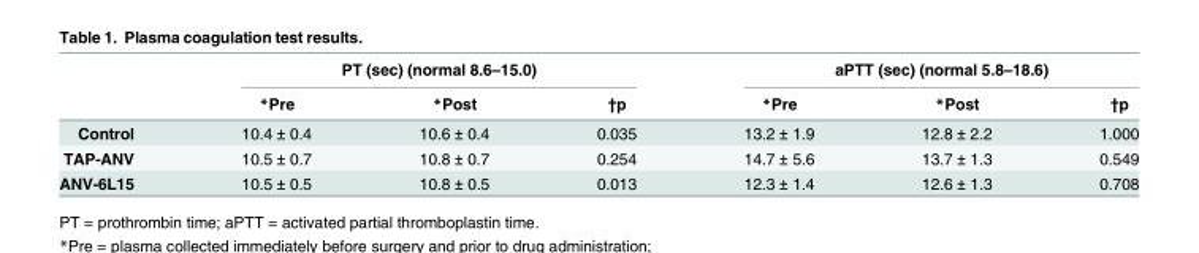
<table><thead><tr><td rowspan="2"></td><td colspan="3">PT (sec) (normal 8.6–15.0)</td><td colspan="3">aPTT (sec) (normal 5.8–18.6)</td></tr><tr><td>*Pre</td><td>*Post</td><td>†p</td><td>*Pre</td><td>*Post</td><td>†p</td></tr></thead><tbody><tr><td>Control</td><td>10.4 ± 0.4</td><td>10.6 ± 0.4</td><td>0.035</td><td>13.2 ± 1.9</td><td>12.8 ± 2.2</td><td>1.000</td></tr><tr><td>TAP-ANV</td><td>10.5 ± 0.7</td><td>10.8 ± 0.7</td><td>0.254</td><td>14.7 ± 5.6</td><td>13.7 ± 1.3</td><td>0.549</td></tr><tr><td>ANV-6L15</td><td>10.5 ± 0.5</td><td>10.8 ± 0.5</td><td>0.013</td><td>12.3 ± 1.4</td><td>12.6 ± 1.3</td><td>0.708</td></tr></tbody></table>